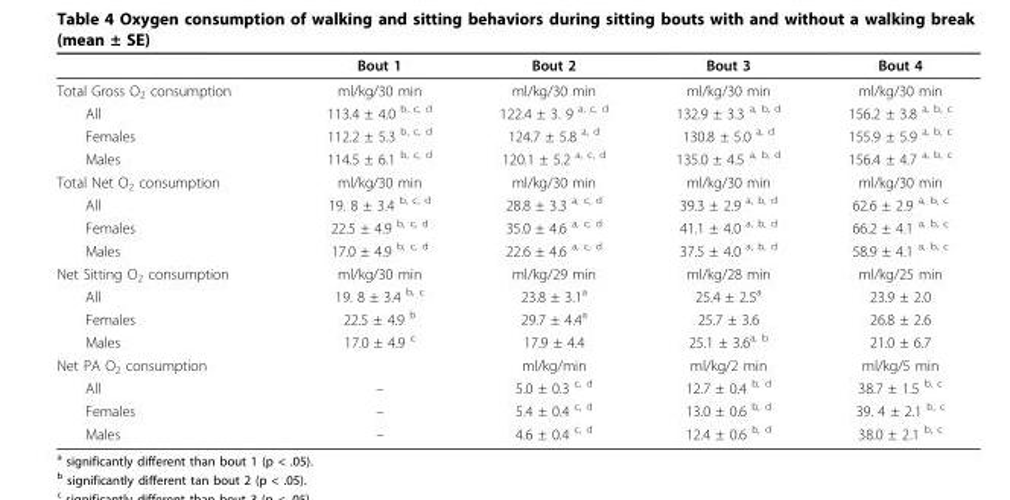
<table><thead><tr><td></td><td>Bout 1</td><td>Bout 2</td><td>Bout 3</td><td>Bout 4</td></tr></thead><tbody><tr><td>Total Gross O<sub>2</sub> consumption</td><td>ml/kg/30 min</td><td>ml/kg/30 min</td><td>ml/kg/30 min</td><td>ml/kg/30 min</td></tr><tr><td>All</td><td>113.4 ± 4.0 <sup>b, c, d</sup></td><td>122.4 ± 3. 9 <sup>a, c, d</sup></td><td>132.9 ± 3.3 <sup>a, b, d</sup></td><td>156.2 ± 3.8 <sup>a, b, c</sup></td></tr><tr><td>Females</td><td>112.2 ± 5.3 <sup>b, c, d</sup></td><td>124.7 ± 5.8 <sup>a, d</sup></td><td>130.8 ± 5.0 <sup>a, d</sup></td><td>155.9 ± 5.9 <sup>a, b, c</sup></td></tr><tr><td>Males</td><td>114.5 ± 6.1 <sup>b, c, d</sup></td><td>120.1 ± 5.2 <sup>a, c, d</sup></td><td>135.0 ± 4.5 <sup>a, b, d</sup></td><td>156.4 ± 4.7 <sup>a, b, c</sup></td></tr><tr><td>Total Net O<sub>2</sub> consumption</td><td>ml/kg/30 min</td><td>ml/kg/30 min</td><td>ml/kg/30 min</td><td>ml/kg/30 min</td></tr><tr><td>All</td><td>19. 8 ± 3.4 <sup>b, c, d</sup></td><td>28.8 ± 3.3 <sup>a, c, d</sup></td><td>39.3 ± 2.9 <sup>a, b, d</sup></td><td>62.6 ± 2.9 <sup>a, b, c</sup></td></tr><tr><td>Females</td><td>22.5 ± 4.9 <sup>b, c, d</sup></td><td>35.0 ± 4.6 <sup>a, c, d</sup></td><td>41.1 ± 4.0 <sup>a, b, d</sup></td><td>66.2 ± 4.1 <sup>a, b, c</sup></td></tr><tr><td>Males</td><td>17.0 ± 4.9 <sup>b, c, d</sup></td><td>22.6 ± 4.6 <sup>a, c, d</sup></td><td>37.5 ± 4.0 <sup>a, b, d</sup></td><td>58.9 ± 4.1 <sup>a, b, c</sup></td></tr><tr><td>Net Sitting O<sub>2</sub> consumption</td><td>ml/kg/30 min</td><td>ml/kg/29 min</td><td>ml/kg/28 min</td><td>ml/kg/25 min</td></tr><tr><td>All</td><td>19. 8 ± 3.4 <sup>b, c</sup></td><td>23.8 ± 3.1<sup>a</sup></td><td>25.4 ± 2.5<sup>a</sup></td><td>23.9 ± 2.0</td></tr><tr><td>Females</td><td>22.5 ± 4.9 <sup>b</sup></td><td>29.7 ± 4.4<sup>a</sup></td><td>25.7 ± 3.6</td><td>26.8 ± 2.6</td></tr><tr><td>Males</td><td>17.0 ± 4.9 <sup>c</sup></td><td>17.9 ± 4.4</td><td>25.1 ± 3.6<sup>a, b</sup></td><td>21.0 ± 6.7</td></tr><tr><td>Net PA O<sub>2</sub> consumption</td><td></td><td>ml/kg/min</td><td>ml/kg/2 min</td><td>ml/kg/5 min</td></tr><tr><td>All</td><td>–</td><td>5.0 ± 0.3 <sup>c, d</sup></td><td>12.7 ± 0.4 <sup>b, d</sup></td><td>38.7 ± 1.5 <sup>b, c</sup></td></tr><tr><td>Females</td><td>–</td><td>5.4 ± 0.4 <sup>c, d</sup></td><td>13.0 ± 0.6 <sup>b, d</sup></td><td>39. 4 ± 2.1 <sup>b, c</sup></td></tr><tr><td>Males</td><td>–</td><td>4.6 ± 0.4 <sup>c, d</sup></td><td>12.4 ± 0.6 <sup>b, d</sup></td><td>38.0 ± 2.1 <sup>b, c</sup></td></tr></tbody></table>